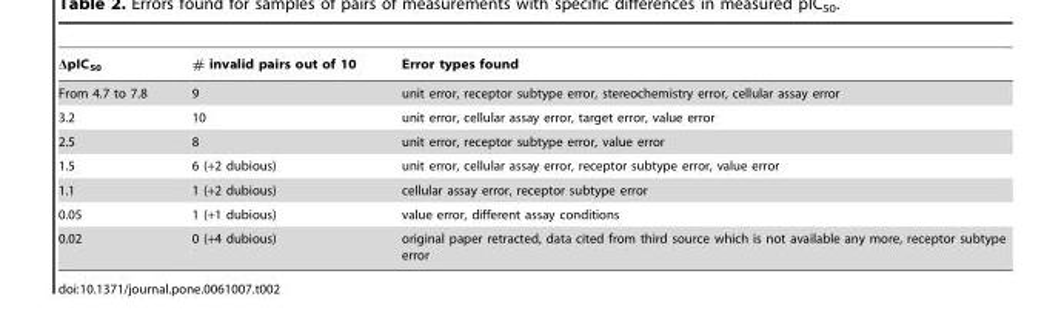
<table><thead><tr><td>ΔpIC<sub>50</sub></td><td># invalid pairs out of 10</td><td>Error types found</td></tr></thead><tbody><tr><td>From 4.7 to 7.8</td><td>9</td><td>unit error, receptor subtype error, stereochemistry error, cellular assay error</td></tr><tr><td>3.2</td><td>10</td><td>unit error, cellular assay error, target error, value error</td></tr><tr><td>2.5</td><td>8</td><td>unit error, receptor subtype error, value error</td></tr><tr><td>1.5</td><td>6 (+2 dubious)</td><td>unit error, cellular assay error, receptor subtype error, value error</td></tr><tr><td>1.1</td><td>1 (+2 dubious)</td><td>cellular assay error, receptor subtype error</td></tr><tr><td>0.05</td><td>1 (+1 dubious)</td><td>value error, different assay conditions</td></tr><tr><td>0.02</td><td>0 (+4 dubious)</td><td>original paper retracted, data cited from third source which is not available any more, receptor subtype error</td></tr></tbody></table>